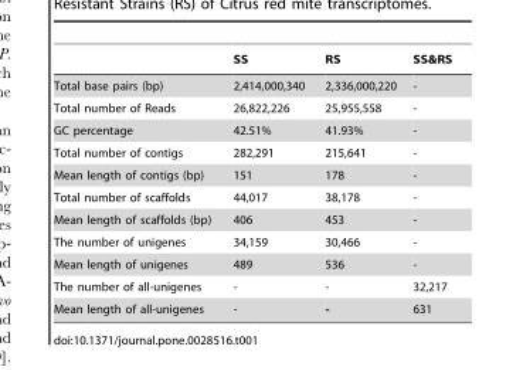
<table><thead><tr><td></td><td>SS</td><td>RS</td><td>SS&amp;RS</td></tr></thead><tbody><tr><td>Total base pairs (bp)</td><td>2,414,000,340</td><td>2,336,000,220</td><td>-</td></tr><tr><td>Total number of Reads</td><td>26,822,226</td><td>25,955,558</td><td>-</td></tr><tr><td>GC percentage</td><td>42.51%</td><td>41.93%</td><td>-</td></tr><tr><td>Total number of contigs</td><td>282,291</td><td>215,641</td><td>-</td></tr><tr><td>Mean length of contigs (bp)</td><td>151</td><td>178</td><td>-</td></tr><tr><td>Total number of scaffolds</td><td>44,017</td><td>38,178</td><td>-</td></tr><tr><td>Mean length of scaffolds (bp)</td><td>406</td><td>453</td><td>-</td></tr><tr><td>The number of unigenes</td><td>34,159</td><td>30,466</td><td>-</td></tr><tr><td>Mean length of unigenes</td><td>489</td><td>536</td><td>-</td></tr><tr><td>The number of all-unigenes</td><td>-</td><td>-</td><td>32,217</td></tr><tr><td>Mean length of all-unigenes</td><td>-</td><td>-</td><td>631</td></tr></tbody></table>